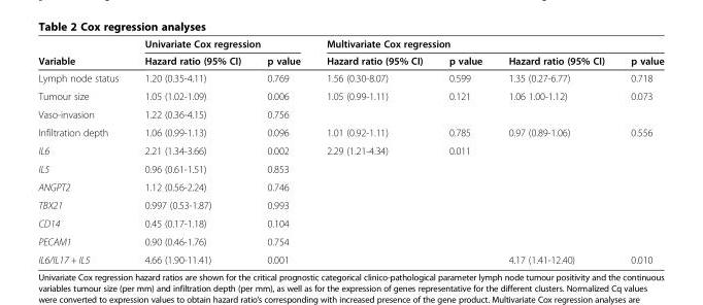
<table><thead><tr><td rowspan="2">Variable</td><td colspan="2">Univariate Cox regression</td><td colspan="4">Multivariate Cox regression</td></tr><tr><td>Hazard ratio (95% CI)</td><td>p value</td><td>Hazard ratio (95% CI)</td><td>p value</td><td>Hazard ratio (95% CI)</td><td>p value</td></tr></thead><tbody><tr><td>Lymph node status</td><td>1.20 (0.35-4.11)</td><td>0.769</td><td>1.56 (0.30-8.07)</td><td>0.599</td><td>1.35 (0.27-6.77)</td><td>0.718</td></tr><tr><td>Tumour size</td><td>1.05 (1.02-1.09)</td><td>0.006</td><td>1.05 (0.99-1.11)</td><td>0.121</td><td>1.06 1.00-1.12)</td><td>0.073</td></tr><tr><td>Vaso-invasion</td><td>1.22 (0.36-4.15)</td><td>0.756</td><td></td><td></td><td></td><td></td></tr><tr><td>Infiltration depth</td><td>1.06 (0.99-1.13)</td><td>0.096</td><td>1.01 (0.92-1.11)</td><td>0.785</td><td>0.97 (0.89-1.06)</td><td>0.556</td></tr><tr><td>IL6</td><td>2.21 (1.34-3.66)</td><td>0.002</td><td>2.29 (1.21-4.34)</td><td>0.011</td><td></td><td></td></tr><tr><td>IL5</td><td>0.96 (0.61-1.51)</td><td>0.853</td><td></td><td></td><td></td><td></td></tr><tr><td>ANGPT2</td><td>1.12 (0.56-2.24)</td><td>0.746</td><td></td><td></td><td></td><td></td></tr><tr><td>TBX21</td><td>0.997 (0.53-1.87)</td><td>0.993</td><td></td><td></td><td></td><td></td></tr><tr><td>CD14</td><td>0.45 (0.17-1.18)</td><td>0.104</td><td></td><td></td><td></td><td></td></tr><tr><td>PECAM1</td><td>0.90 (0.46-1.76)</td><td>0.754</td><td></td><td></td><td></td><td></td></tr><tr><td>IL6/IL17 + IL5</td><td>4.66 (1.90-11.41)</td><td>0.001</td><td></td><td></td><td>4.17 (1.41-12.40)</td><td>0.010</td></tr></tbody></table>